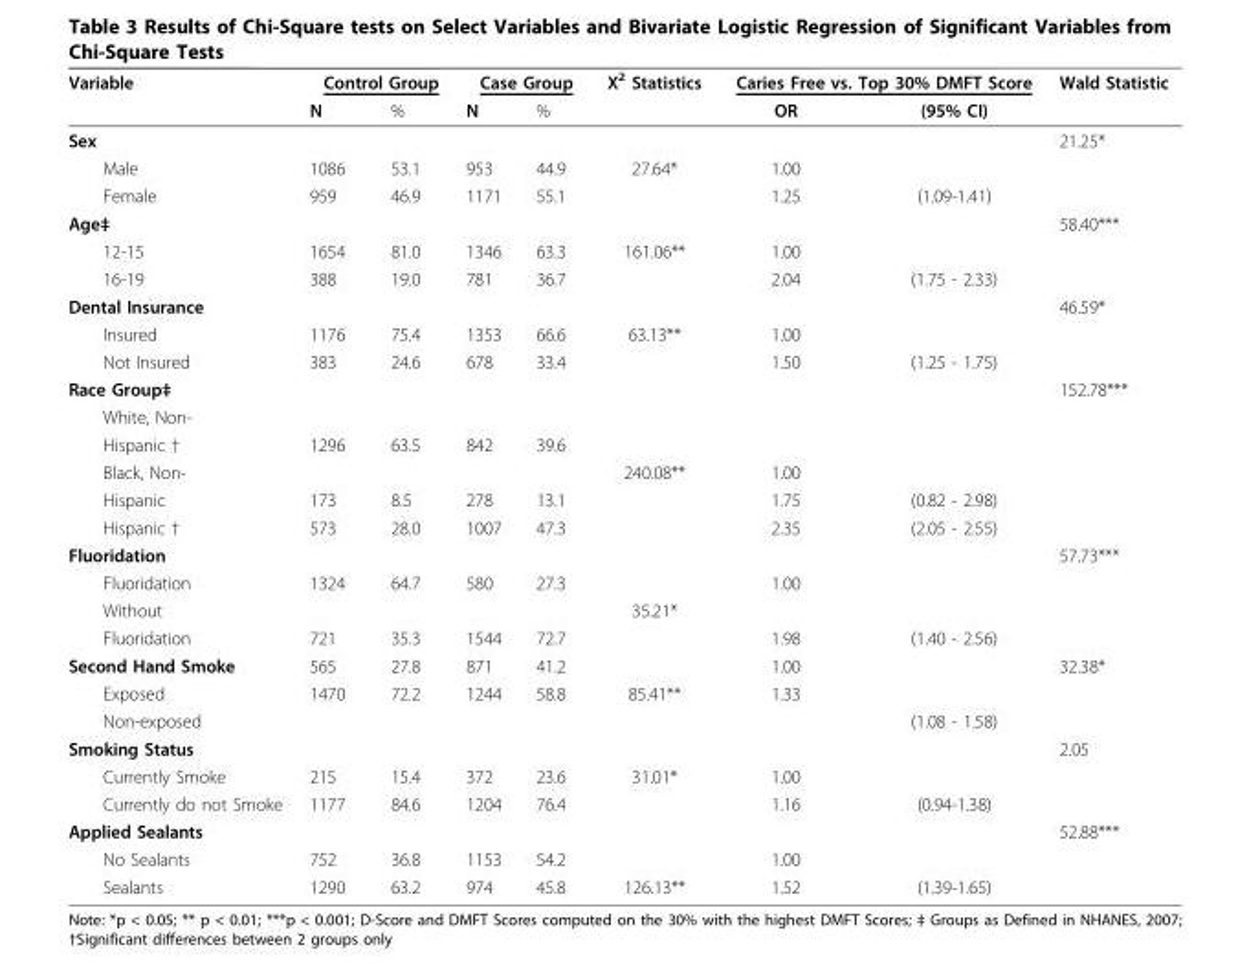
<table><thead><tr><td rowspan="2">Variable</td><td colspan="2">Control Group</td><td colspan="2">Case Group</td><td rowspan="2">Χ<sup>2</sup> Statistics</td><td colspan="2">Caries Free vs. Top 30% DMFT Score</td><td rowspan="2">Wald Statistic</td></tr><tr><td>N</td><td>%</td><td>N</td><td>%</td><td>OR</td><td>(95% CI)</td></tr></thead><tbody><tr><td>Sex</td><td></td><td></td><td></td><td></td><td></td><td></td><td></td><td>21.25*</td></tr><tr><td>Male</td><td>1086</td><td>53.1</td><td>953</td><td>44.9</td><td>27.64*</td><td>1.00</td><td></td><td></td></tr><tr><td>Female</td><td>959</td><td>46.9</td><td>1171</td><td>55.1</td><td></td><td>1.25</td><td>(1.09-1.41)</td><td></td></tr><tr><td>Age‡</td><td></td><td></td><td></td><td></td><td></td><td></td><td></td><td>58.40***</td></tr><tr><td>12-15</td><td>1654</td><td>81.0</td><td>1346</td><td>63.3</td><td>161.06**</td><td>1.00</td><td></td><td></td></tr><tr><td>16-19</td><td>388</td><td>19.0</td><td>781</td><td>36.7</td><td></td><td>2.04</td><td>(1.75 - 2.33)</td><td></td></tr><tr><td>Dental Insurance</td><td></td><td></td><td></td><td></td><td></td><td></td><td></td><td>46.59*</td></tr><tr><td>Insured</td><td>1176</td><td>75.4</td><td>1353</td><td>66.6</td><td>63.13**</td><td>1.00</td><td></td><td></td></tr><tr><td>Not Insured</td><td>383</td><td>24.6</td><td>678</td><td>33.4</td><td></td><td>1.50</td><td>(1.25 - 1.75)</td><td></td></tr><tr><td>Race Group‡</td><td></td><td></td><td></td><td></td><td></td><td></td><td></td><td>152.78***</td></tr><tr><td colspan="9">White, Non-</td></tr><tr><td>Hispanic †</td><td>1296</td><td>63.5</td><td>842</td><td>39.6</td><td></td><td></td><td></td><td></td></tr><tr><td>Black, Non-</td><td colspan="4"></td><td>240.08**</td><td>1.00</td><td colspan="2"></td></tr><tr><td>Hispanic</td><td>173</td><td>8.5</td><td>278</td><td>13.1</td><td></td><td>1.75</td><td>(0.82 - 2.98)</td><td></td></tr><tr><td>Hispanic †</td><td>573</td><td>28.0</td><td>1007</td><td>47.3</td><td></td><td>2.35</td><td>(2.05 - 2.55)</td><td></td></tr><tr><td>Fluoridation</td><td></td><td></td><td></td><td></td><td></td><td></td><td></td><td>57.73***</td></tr><tr><td>Fluoridation</td><td>1324</td><td>64.7</td><td>580</td><td>27.3</td><td></td><td>1.00</td><td></td><td></td></tr><tr><td>Without</td><td></td><td></td><td></td><td></td><td>35.21*</td><td></td><td></td><td></td></tr><tr><td>Fluoridation</td><td>721</td><td>35.3</td><td>1544</td><td>72.7</td><td></td><td>1.98</td><td>(1.40 - 2.56)</td><td></td></tr><tr><td>Second Hand Smoke</td><td>565</td><td>27.8</td><td>871</td><td>41.2</td><td></td><td>1.00</td><td></td><td>32.38*</td></tr><tr><td>Exposed</td><td>1470</td><td>72.2</td><td>1244</td><td>58.8</td><td>85.41**</td><td>1.33</td><td></td><td></td></tr><tr><td>Non-exposed</td><td></td><td></td><td></td><td></td><td></td><td></td><td>(1.08 - 1.58)</td><td></td></tr><tr><td>Smoking Status</td><td></td><td></td><td></td><td></td><td></td><td></td><td></td><td>2.05</td></tr><tr><td>Currently Smoke</td><td>215</td><td>15.4</td><td>372</td><td>23.6</td><td>31.01*</td><td>1.00</td><td></td><td></td></tr><tr><td>Currently do not Smoke</td><td>1177</td><td>84.6</td><td>1204</td><td>76.4</td><td></td><td>1.16</td><td>(0.94-1.38)</td><td></td></tr><tr><td>Applied Sealants</td><td></td><td></td><td></td><td></td><td></td><td></td><td></td><td>52.88***</td></tr><tr><td>No Sealants</td><td>752</td><td>36.8</td><td>1153</td><td>54.2</td><td></td><td>1.00</td><td></td><td></td></tr><tr><td>Sealants</td><td>1290</td><td>63.2</td><td>974</td><td>45.8</td><td>126.13**</td><td>1.52</td><td>(1.39-1.65)</td><td></td></tr></tbody></table>